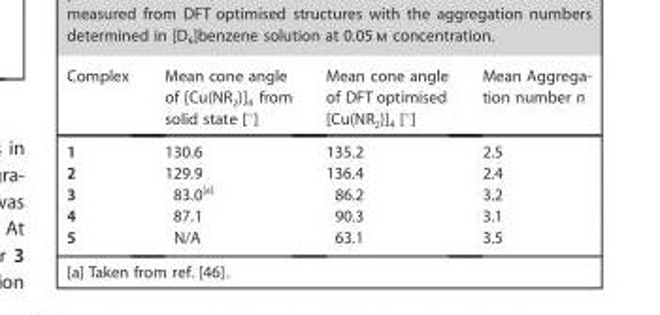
<table><thead><tr><td>Complex</td><td>Mean cone angle of [Cu(NR<sub>2</sub>)]<sub>4</sub> from solid state [°]</td><td>Mean cone angle of DFT optimised [Cu(NR<sub>2</sub>)]<sub>4</sub> [°]</td><td>Mean Aggrega- tion number n</td></tr></thead><tbody><tr><td>1</td><td>130.6</td><td>135.2</td><td>2.5</td></tr><tr><td>2</td><td>129.9</td><td>136.4</td><td>2.4</td></tr><tr><td>3</td><td>83.0[a]</td><td>86.2</td><td>3.2</td></tr><tr><td>4</td><td>87.1</td><td>90.3</td><td>3.1</td></tr><tr><td>5</td><td>N/A</td><td>63.1</td><td>3.5</td></tr></tbody></table>